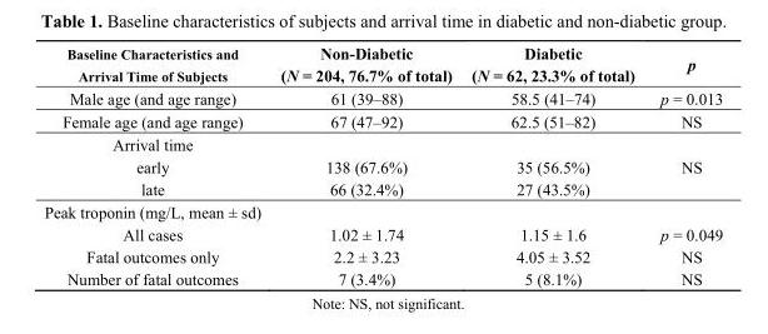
<table><thead><tr><td>Baseline Characteristics and Arrival Time of Subjects</td><td>Non-Diabetic (N = 204, 76.7% of total)</td><td>Diabetic (N = 62, 23.3% of total)</td><td>p</td></tr></thead><tbody><tr><td>Male age (and age range)</td><td>61 (39–88)</td><td>58.5 (41–74)</td><td>p = 0.013</td></tr><tr><td>Female age (and age range)</td><td>67 (47–92)</td><td>62.5 (51–82)</td><td>NS</td></tr><tr><td colspan="4">Arrival time</td></tr><tr><td>early</td><td>138 (67.6%)</td><td>35 (56.5%)</td><td>NS</td></tr><tr><td>late</td><td>66 (32.4%)</td><td>27 (43.5%)</td><td></td></tr><tr><td colspan="4">Peak troponin (mg/L, mean ± sd)</td></tr><tr><td>All cases</td><td>1.02 ± 1.74</td><td>1.15 ± 1.6</td><td>p = 0.049</td></tr><tr><td>Fatal outcomes only</td><td>2.2 ± 3.23</td><td>4.05 ± 3.52</td><td>NS</td></tr><tr><td>Number of fatal outcomes</td><td>7 (3.4%)</td><td>5 (8.1%)</td><td>NS</td></tr></tbody></table>